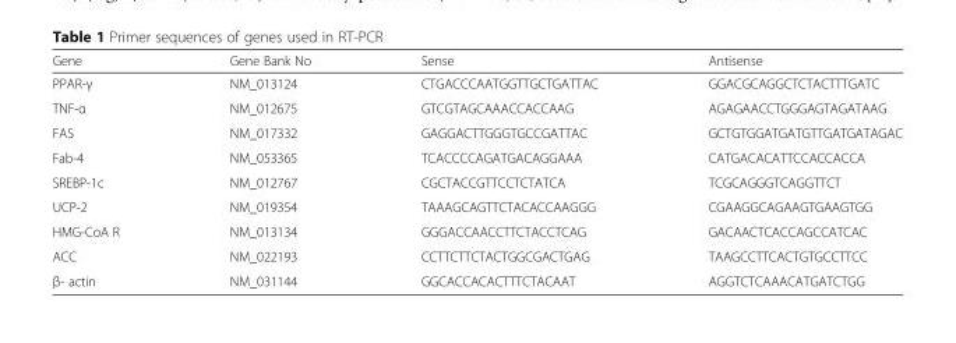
<table><thead><tr><td>Gene</td><td>Gene Bank No</td><td>Sense</td><td>Antisense</td></tr></thead><tbody><tr><td>PPAR-γ</td><td>NM_013124</td><td>CTGACCCAATGGTTGCTGATTAC</td><td>GGACGCAGGCTCTACTTTGATC</td></tr><tr><td>TNF-α</td><td>NM_012675</td><td>GTCGTAGCAAACCACCAAG</td><td>AGAGAACCTGGGAGTAGATAAG</td></tr><tr><td>FAS</td><td>NM_017332</td><td>GAGGACTTGGGTGCCGATTAC</td><td>GCTGTGGATGATGTTGATGATAGAC</td></tr><tr><td>Fab-4</td><td>NM_053365</td><td>TCACCCCAGATGACAGGAAA</td><td>CATGACACATTCCACCACCA</td></tr><tr><td>SREBP-1c</td><td>NM_012767</td><td>CGCTACCGTTCCTCTATCA</td><td>TCGCAGGGTCAGGTTCT</td></tr><tr><td>UCP-2</td><td>NM_019354</td><td>TAAAGCAGTTCTACACCAAGGG</td><td>CGAAGGCAGAAGTGAAGTGG</td></tr><tr><td>HMG-CoA R</td><td>NM_013134</td><td>GGGACCAACCTTCTACCTCAG</td><td>GACAACTCACCAGCCATCAC</td></tr><tr><td>ACC</td><td>NM_022193</td><td>CCTTCTTCTACTGGCGACTGAG</td><td>TAAGCCTTCACTGTGCCTTCC</td></tr><tr><td>β- actin</td><td>NM_031144</td><td>GGCACCACACTTTCTACAAT</td><td>AGGTCTCAAACATGATCTGG</td></tr></tbody></table>